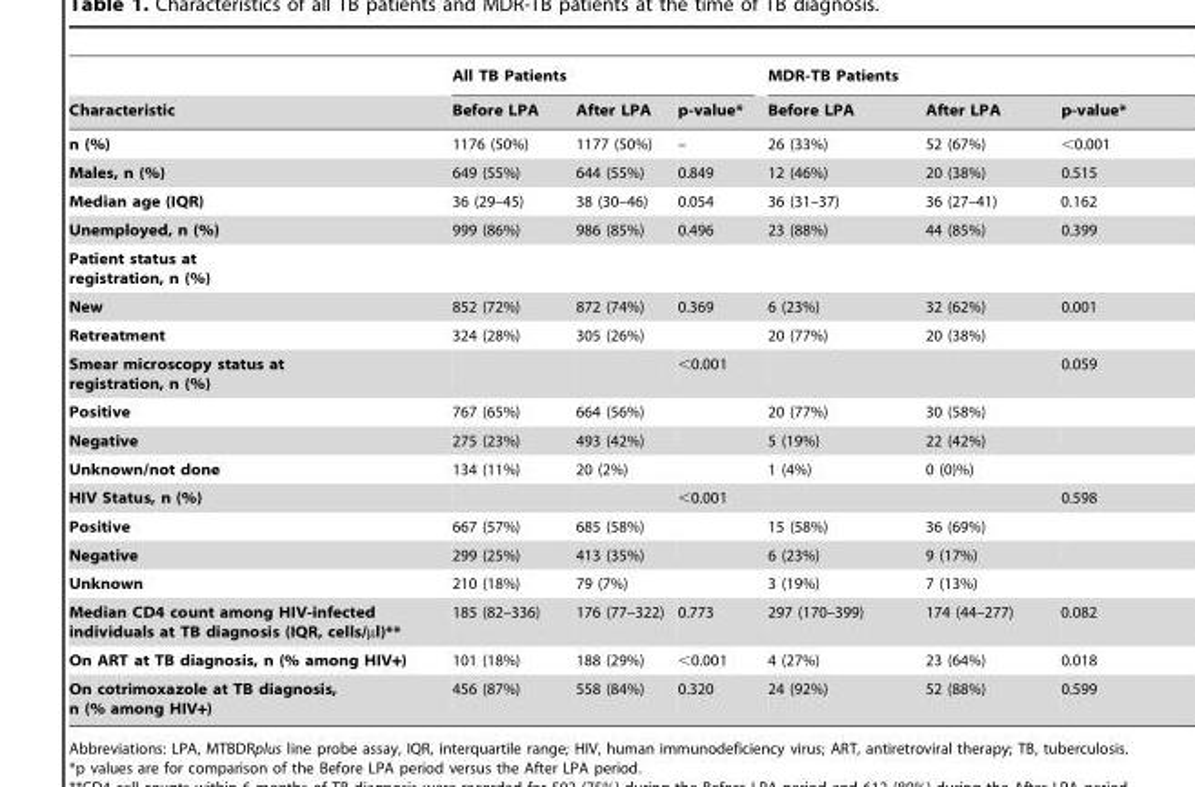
<table><thead><tr><td rowspan="2">Characteristic</td><td colspan="3">All TB Patients</td><td colspan="3">MDR-TB Patients</td></tr><tr><td>Before LPA</td><td>After LPA</td><td>p-value*</td><td>Before LPA</td><td>After LPA</td><td>p-value*</td></tr></thead><tbody><tr><td>n (%)</td><td>1176 (50%)</td><td>1177 (50%)</td><td>–</td><td>26 (33%)</td><td>52 (67%)</td><td>&lt;0.001</td></tr><tr><td>Males, n (%)</td><td>649 (55%)</td><td>644 (55%)</td><td>0.849</td><td>12 (46%)</td><td>20 (38%)</td><td>0.515</td></tr><tr><td>Median age (IQR)</td><td>36 (29–45)</td><td>38 (30–46)</td><td>0.054</td><td>36 (31–37)</td><td>36 (27–41)</td><td>0.162</td></tr><tr><td>Unemployed, n (%)</td><td>999 (86%)</td><td>986 (85%)</td><td>0.496</td><td>23 (88%)</td><td>44 (85%)</td><td>0.399</td></tr><tr><td colspan="7">Patient status at registration, n (%)</td></tr><tr><td>New</td><td>852 (72%)</td><td>872 (74%)</td><td>0.369</td><td>6 (23%)</td><td>32 (62%)</td><td>0.001</td></tr><tr><td>Retreatment</td><td>324 (28%)</td><td>305 (26%)</td><td></td><td>20 (77%)</td><td>20 (38%)</td><td></td></tr><tr><td>Smear microscopy status at registration, n (%)</td><td></td><td></td><td>&lt;0.001</td><td></td><td></td><td>0.059</td></tr><tr><td>Positive</td><td>767 (65%)</td><td>664 (56%)</td><td></td><td>20 (77%)</td><td>30 (58%)</td><td></td></tr><tr><td>Negative</td><td>275 (23%)</td><td>493 (42%)</td><td></td><td>5 (19%)</td><td>22 (42%)</td><td></td></tr><tr><td>Unknown/not done</td><td>134 (11%)</td><td>20 (2%)</td><td></td><td>1 (4%)</td><td>0 (0)%)</td><td></td></tr><tr><td>HIV Status, n (%)</td><td></td><td></td><td>&lt;0.001</td><td></td><td></td><td>0.598</td></tr><tr><td>Positive</td><td>667 (57%)</td><td>685 (58%)</td><td></td><td>15 (58%)</td><td>36 (69%)</td><td></td></tr><tr><td>Negative</td><td>299 (25%)</td><td>413 (35%)</td><td></td><td>6 (23%)</td><td>9 (17%)</td><td></td></tr><tr><td>Unknown</td><td>210 (18%)</td><td>79 (7%)</td><td></td><td>3 (19%)</td><td>7 (13%)</td><td></td></tr><tr><td>Median CD4 count among HIV-infected individuals at TB diagnosis (IQR, cells/µl)**</td><td>185 (82–336)</td><td>176 (77–322)</td><td>0.773</td><td>297 (170–399)</td><td>174 (44–277)</td><td>0.082</td></tr><tr><td>On ART at TB diagnosis, n (% among HIV+)</td><td>101 (18%)</td><td>188 (29%)</td><td>&lt;0.001</td><td>4 (27%)</td><td>23 (64%)</td><td>0.018</td></tr><tr><td>On cotrimoxazole at TB diagnosis, n (% among HIV+)</td><td>456 (87%)</td><td>558 (84%)</td><td>0.320</td><td>24 (92%)</td><td>52 (88%)</td><td>0.599</td></tr></tbody></table>